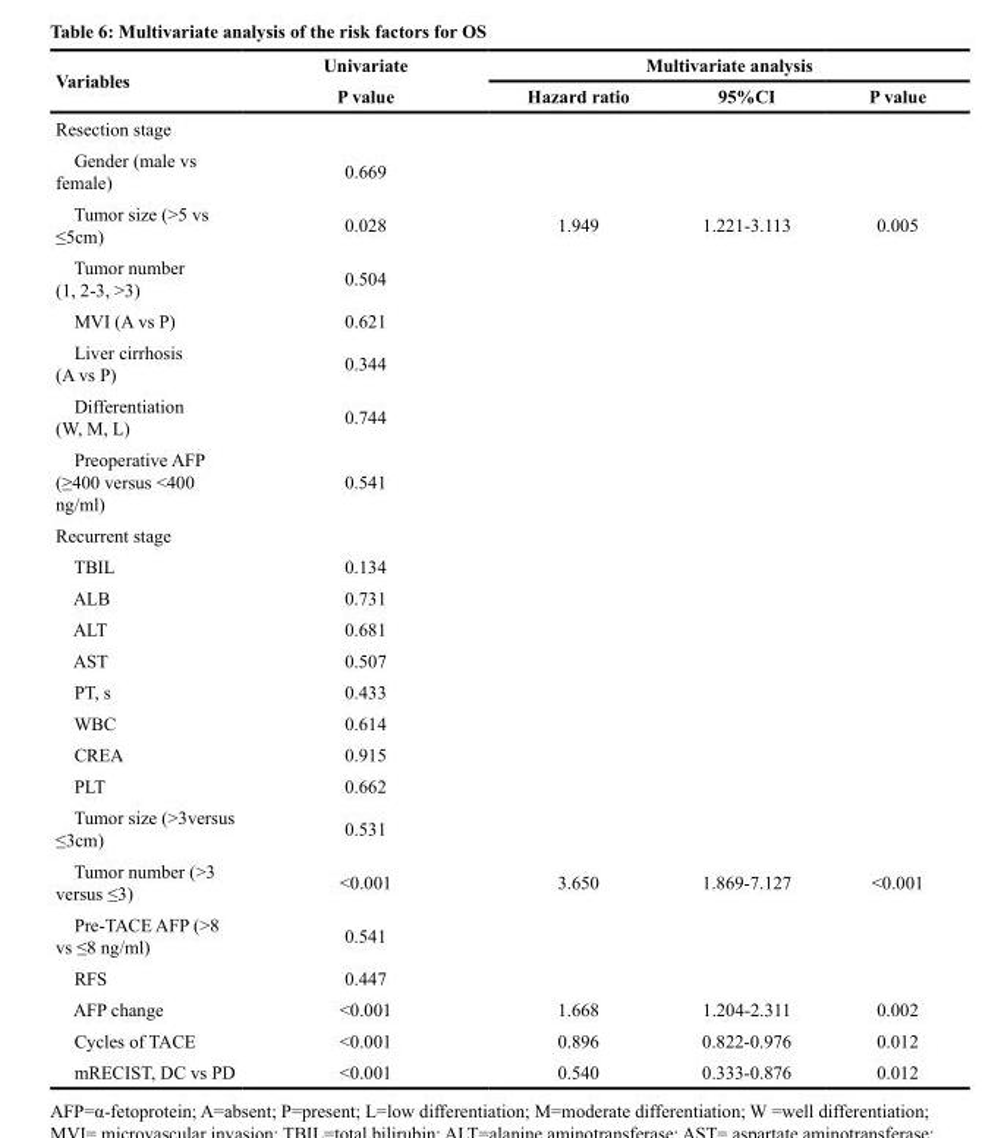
<table><thead><tr><td rowspan="2">Variables</td><td rowspan="2">Univariate P value</td><td colspan="3">Multivariate analysis</td></tr><tr><td>Hazard ratio</td><td>95%CI</td><td>P value</td></tr></thead><tbody><tr><td colspan="5">Resection stage</td></tr><tr><td>Gender (male vs female)</td><td>0.669</td><td></td><td></td><td></td></tr><tr><td>Tumor size (&gt;5 vs ≤5cm)</td><td>0.028</td><td>1.949</td><td>1.221-3.113</td><td>0.005</td></tr><tr><td>Tumor number (1, 2-3, &gt;3)</td><td>0.504</td><td></td><td></td><td></td></tr><tr><td>MVI (A vs P)</td><td>0.621</td><td></td><td></td><td></td></tr><tr><td>Liver cirrhosis (A vs P)</td><td>0.344</td><td></td><td></td><td></td></tr><tr><td>Differentiation (W, M, L)</td><td>0.744</td><td></td><td></td><td></td></tr><tr><td>Preoperative AFP (≥400 versus &lt;400 ng/ml)</td><td>0.541</td><td></td><td></td><td></td></tr><tr><td colspan="5">Recurrent stage</td></tr><tr><td>TBIL</td><td>0.134</td><td></td><td></td><td></td></tr><tr><td>ALB</td><td>0.731</td><td></td><td></td><td></td></tr><tr><td>ALT</td><td>0.681</td><td></td><td></td><td></td></tr><tr><td>AST</td><td>0.507</td><td></td><td></td><td></td></tr><tr><td>PT, s</td><td>0.433</td><td></td><td></td><td></td></tr><tr><td>WBC</td><td>0.614</td><td></td><td></td><td></td></tr><tr><td>CREA</td><td>0.915</td><td></td><td></td><td></td></tr><tr><td>PLT</td><td>0.662</td><td></td><td></td><td></td></tr><tr><td>Tumor size (&gt;3versus ≤3cm)</td><td>0.531</td><td></td><td></td><td></td></tr><tr><td>Tumor number (&gt;3 versus ≤3)</td><td>&lt;0.001</td><td>3.650</td><td>1.869-7.127</td><td>&lt;0.001</td></tr><tr><td>Pre-TACE AFP (&gt;8 vs ≤8 ng/ml)</td><td>0.541</td><td></td><td></td><td></td></tr><tr><td>RFS</td><td>0.447</td><td></td><td></td><td></td></tr><tr><td>AFP change</td><td>&lt;0.001</td><td>1.668</td><td>1.204-2.311</td><td>0.002</td></tr><tr><td>Cycles of TACE</td><td>&lt;0.001</td><td>0.896</td><td>0.822-0.976</td><td>0.012</td></tr><tr><td>mRECIST, DC vs PD</td><td>&lt;0.001</td><td>0.540</td><td>0.333-0.876</td><td>0.012</td></tr></tbody></table>